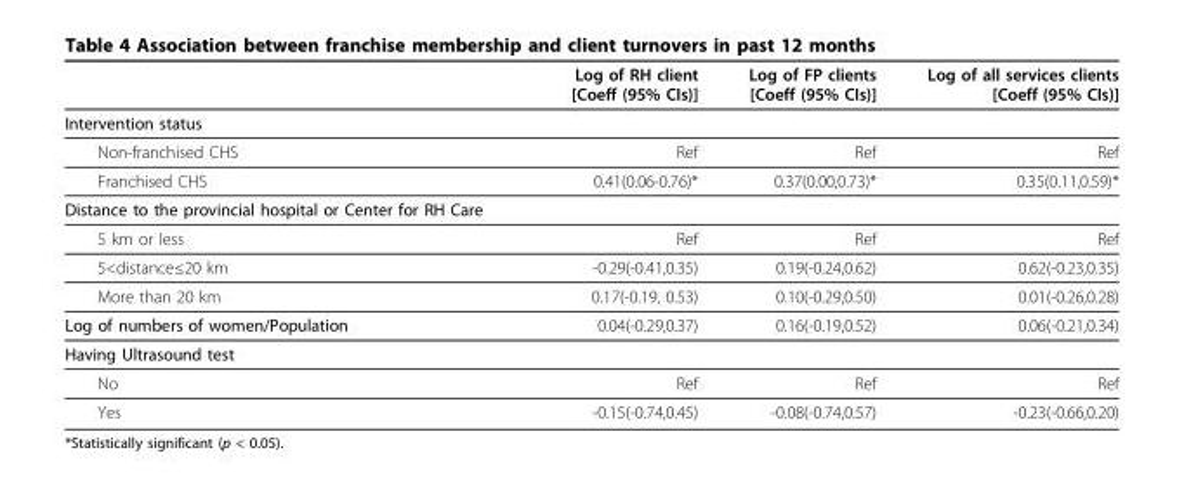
<table><thead><tr><td></td><td>Log of RH client [Coeff (95% CIs)]</td><td>Log of FP clients [Coeff (95% CIs)]</td><td>Log of all services clients [Coeff (95% CIs)]</td></tr></thead><tbody><tr><td colspan="4">Intervention status</td></tr><tr><td>Non-franchised CHS</td><td>Ref</td><td>Ref</td><td>Ref</td></tr><tr><td>Franchised CHS</td><td>0.41(0.06-0.76)*</td><td>0.37(0.00,0.73)*</td><td>0.35(0.11,0.59)*</td></tr><tr><td colspan="4">Distance to the provincial hospital or Center for RH Care</td></tr><tr><td>5 km or less</td><td>Ref</td><td>Ref</td><td>Ref</td></tr><tr><td>5&lt;distance≤20 km</td><td>-0.29(-0.41,0.35)</td><td>0.19(-0.24,0.62)</td><td>0.62(-0.23,0.35)</td></tr><tr><td>More than 20 km</td><td>0.17(-0.19, 0.53)</td><td>0.10(-0.29,0.50)</td><td>0.01(-0.26,0.28)</td></tr><tr><td>Log of numbers of women/Population</td><td>0.04(-0.29,0.37)</td><td>0.16(-0.19,0.52)</td><td>0.06(-0.21,0.34)</td></tr><tr><td colspan="4">Having Ultrasound test</td></tr><tr><td>No</td><td>Ref</td><td>Ref</td><td>Ref</td></tr><tr><td>Yes</td><td>-0.15(-0.74,0.45)</td><td>-0.08(-0.74,0.57)</td><td>-0.23(-0.66,0.20)</td></tr></tbody></table>